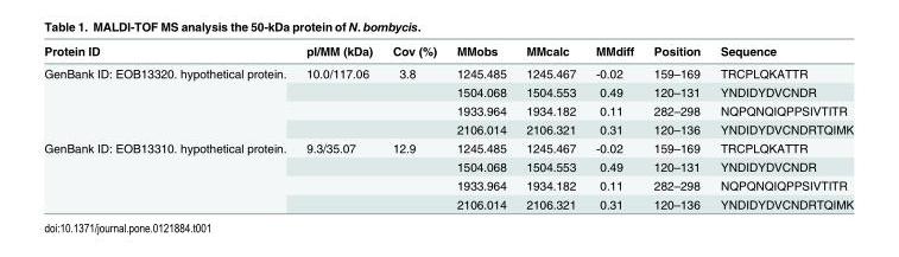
<table><thead><tr><td>Protein ID</td><td>pI/MM (kDa)</td><td>Cov (%)</td><td>MMobs</td><td>MMcalc</td><td>MMdiff</td><td>Position</td><td>Sequence</td></tr></thead><tbody><tr><td rowspan="4">GenBank ID: EOB13320. hypothetical protein.</td><td>10.0/117.06</td><td>3.8</td><td>1245.485</td><td>1245.467</td><td>-0.02</td><td>159–169</td><td>TRCPLQKATTR</td></tr><tr><td></td><td></td><td>1504.068</td><td>1504.553</td><td>0.49</td><td>120–131</td><td>YNDIDYDVCNDR</td></tr><tr><td></td><td></td><td>1933.964</td><td>1934.182</td><td>0.11</td><td>282–298</td><td>NQPQNQIQPPSIVTITR</td></tr><tr><td></td><td></td><td>2106.014</td><td>2106.321</td><td>0.31</td><td>120–136</td><td>YNDIDYDVCNDRTQIMK</td></tr><tr><td rowspan="4">GenBank ID: EOB13310. hypothetical protein.</td><td>9.3/35.07</td><td>12.9</td><td>1245.485</td><td>1245.467</td><td>-0.02</td><td>159–169</td><td>TRCPLQKATTR</td></tr><tr><td></td><td></td><td>1504.068</td><td>1504.553</td><td>0.49</td><td>120–131</td><td>YNDIDYDVCNDR</td></tr><tr><td></td><td></td><td>1933.964</td><td>1934.182</td><td>0.11</td><td>282–298</td><td>NQPQNQIQPPSIVTITR</td></tr><tr><td></td><td></td><td>2106.014</td><td>2106.321</td><td>0.31</td><td>120–136</td><td>YNDIDYDVCNDRTQIMK</td></tr></tbody></table>